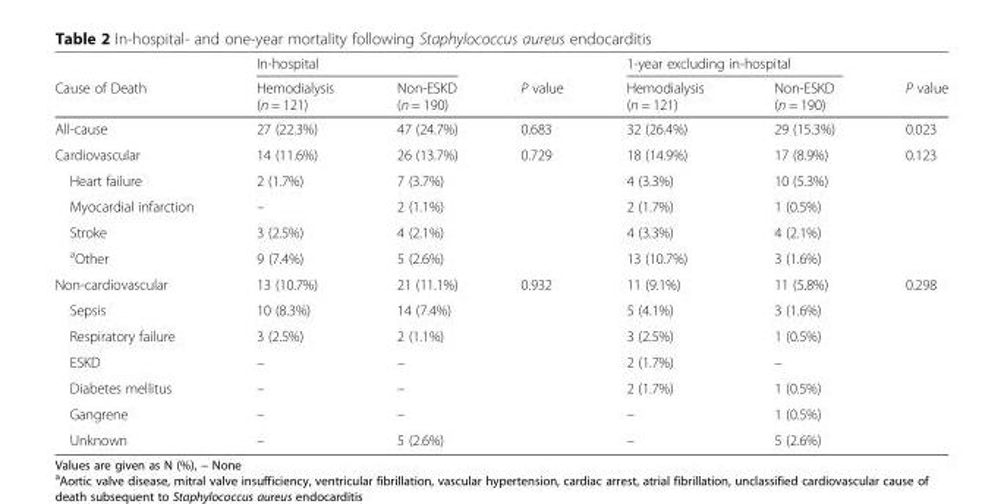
<table><thead><tr><td rowspan="2">Cause of Death</td><td colspan="2">In-hospital</td><td rowspan="2">P value</td><td colspan="2">1-year excluding in-hospital</td><td rowspan="2">P value</td></tr><tr><td>Hemodialysis (n = 121)</td><td>Non-ESKD (n = 190)</td><td>Hemodialysis (n = 121)</td><td>Non-ESKD (n = 190)</td></tr></thead><tbody><tr><td>All-cause</td><td>27 (22.3%)</td><td>47 (24.7%)</td><td>0.683</td><td>32 (26.4%)</td><td>29 (15.3%)</td><td>0.023</td></tr><tr><td>Cardiovascular</td><td>14 (11.6%)</td><td>26 (13.7%)</td><td>0.729</td><td>18 (14.9%)</td><td>17 (8.9%)</td><td>0.123</td></tr><tr><td>Heart failure</td><td>2 (1.7%)</td><td>7 (3.7%)</td><td></td><td>4 (3.3%)</td><td>10 (5.3%)</td><td></td></tr><tr><td>Myocardial infarction</td><td>–</td><td>2 (1.1%)</td><td></td><td>2 (1.7%)</td><td>1 (0.5%)</td><td></td></tr><tr><td>Stroke</td><td>3 (2.5%)</td><td>4 (2.1%)</td><td></td><td>4 (3.3%)</td><td>4 (2.1%)</td><td></td></tr><tr><td><sup>a</sup>Other</td><td>9 (7.4%)</td><td>5 (2.6%)</td><td></td><td>13 (10.7%)</td><td>3 (1.6%)</td><td></td></tr><tr><td>Non-cardiovascular</td><td>13 (10.7%)</td><td>21 (11.1%)</td><td>0.932</td><td>11 (9.1%)</td><td>11 (5.8%)</td><td>0.298</td></tr><tr><td>Sepsis</td><td>10 (8.3%)</td><td>14 (7.4%)</td><td></td><td>5 (4.1%)</td><td>3 (1.6%)</td><td></td></tr><tr><td>Respiratory failure</td><td>3 (2.5%)</td><td>2 (1.1%)</td><td></td><td>3 (2.5%)</td><td>1 (0.5%)</td><td></td></tr><tr><td>ESKD</td><td>–</td><td>–</td><td></td><td>2 (1.7%)</td><td>–</td><td></td></tr><tr><td>Diabetes mellitus</td><td>–</td><td>–</td><td></td><td>2 (1.7%)</td><td>1 (0.5%)</td><td></td></tr><tr><td>Gangrene</td><td>–</td><td>–</td><td></td><td>–</td><td>1 (0.5%)</td><td></td></tr><tr><td>Unknown</td><td>–</td><td>5 (2.6%)</td><td></td><td>–</td><td>5 (2.6%)</td><td></td></tr></tbody></table>